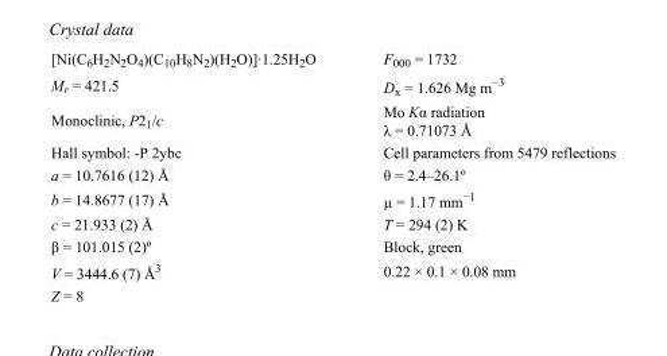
<table><tbody><tr><td>[Ni(C<sub>6</sub>H<sub>2</sub>N<sub>2</sub>O<sub>4</sub>)(C<sub>10</sub>H<sub>8</sub>N<sub>2</sub>)(H<sub>2</sub>O)]·1.25H<sub>2</sub>O</td><td>F000 = 1732</td></tr><tr><td>M<sub>r</sub> = 421.5</td><td>D<sub>x</sub> = 1.626 Mg m<sup>−3</sup></td></tr><tr><td>Monoclinic, P2<sub>1</sub>/c</td><td>Mo Kα radiation λ = 0.71073 Å</td></tr><tr><td>Hall symbol: -P 2ybc</td><td>Cell parameters from 5479 reflections</td></tr><tr><td>a = 10.7616 (12) Å</td><td>θ = 2.4–26.1º</td></tr><tr><td>b = 14.8677 (17) Å</td><td>µ = 1.17 mm<sup>−1</sup></td></tr><tr><td>c = 21.933 (2) Å</td><td>T = 294 (2) K</td></tr><tr><td>β = 101.015 (2)º</td><td>Block, green</td></tr><tr><td>V = 3444.6 (7) Å<sup>3</sup></td><td>0.22 × 0.1 × 0.08 mm</td></tr><tr><td>Z = 8</td><td></td></tr></tbody></table>